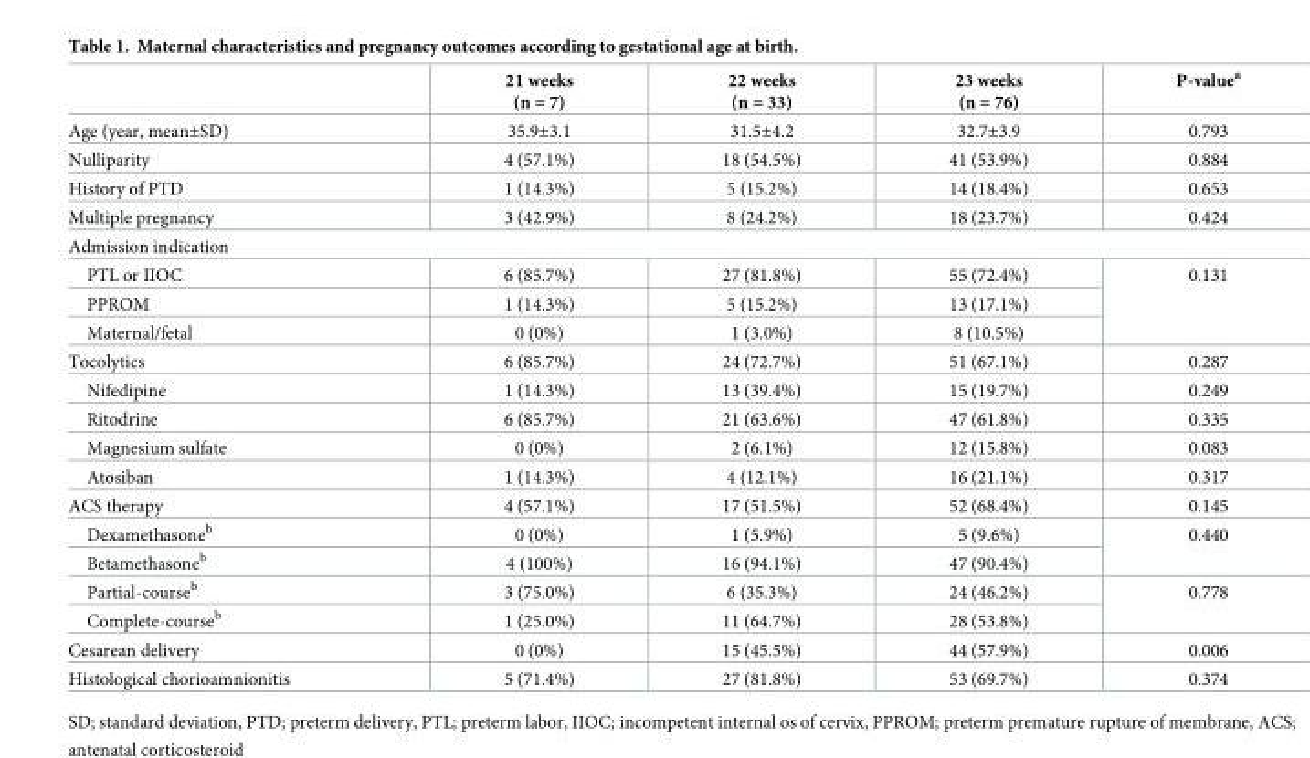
<table><thead><tr><td></td><td>21 weeks (n = 7)</td><td>22 weeks (n = 33)</td><td>23 weeks (n = 76)</td><td>P-value<sup>a</sup></td></tr></thead><tbody><tr><td>Age (year, mean±SD)</td><td>35.9±3.1</td><td>31.5±4.2</td><td>32.7±3.9</td><td>0.793</td></tr><tr><td>Nulliparity</td><td>4 (57.1%)</td><td>18 (54.5%)</td><td>41 (53.9%)</td><td>0.884</td></tr><tr><td>History of PTD</td><td>1 (14.3%)</td><td>5 (15.2%)</td><td>14 (18.4%)</td><td>0.653</td></tr><tr><td>Multiple pregnancy</td><td>3 (42.9%)</td><td>8 (24.2%)</td><td>18 (23.7%)</td><td>0.424</td></tr><tr><td colspan="5">Admission indication</td></tr><tr><td>PTL or IIOC</td><td>6 (85.7%)</td><td>27 (81.8%)</td><td>55 (72.4%)</td><td rowspan="3">0.131</td></tr><tr><td>PPROM</td><td>1 (14.3%)</td><td>5 (15.2%)</td><td>13 (17.1%)</td></tr><tr><td>Maternal/fetal</td><td>0 (0%)</td><td>1 (3.0%)</td><td>8 (10.5%)</td></tr><tr><td>Tocolytics</td><td>6 (85.7%)</td><td>24 (72.7%)</td><td>51 (67.1%)</td><td>0.287</td></tr><tr><td>Nifedipine</td><td>1 (14.3%)</td><td>13 (39.4%)</td><td>15 (19.7%)</td><td>0.249</td></tr><tr><td>Ritodrine</td><td>6 (85.7%)</td><td>21 (63.6%)</td><td>47 (61.8%)</td><td>0.335</td></tr><tr><td>Magnesium sulfate</td><td>0 (0%)</td><td>2 (6.1%)</td><td>12 (15.8%)</td><td>0.083</td></tr><tr><td>Atosiban</td><td>1 (14.3%)</td><td>4 (12.1%)</td><td>16 (21.1%)</td><td>0.317</td></tr><tr><td>ACS therapy</td><td>4 (57.1%)</td><td>17 (51.5%)</td><td>52 (68.4%)</td><td>0.145</td></tr><tr><td>Dexamethasone<sup>b</sup></td><td>0 (0%)</td><td>1 (5.9%)</td><td>5 (9.6%)</td><td rowspan="2">0.440</td></tr><tr><td>Betamethasone<sup>b</sup></td><td>4 (100%)</td><td>16 (94.1%)</td><td>47 (90.4%)</td></tr><tr><td>Partial-course<sup>b</sup></td><td>3 (75.0%)</td><td>6 (35.3%)</td><td>24 (46.2%)</td><td rowspan="2">0.778</td></tr><tr><td>Complete-course<sup>b</sup></td><td>1 (25.0%)</td><td>11 (64.7%)</td><td>28 (53.8%)</td></tr><tr><td>Cesarean delivery</td><td>0 (0%)</td><td>15 (45.5%)</td><td>44 (57.9%)</td><td>0.006</td></tr><tr><td>Histological chorioamnionitis</td><td>5 (71.4%)</td><td>27 (81.8%)</td><td>53 (69.7%)</td><td>0.374</td></tr></tbody></table>